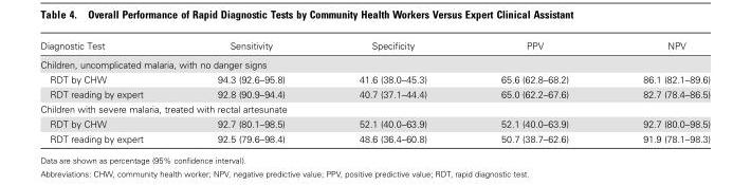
<table><thead><tr><td>Diagnostic Test</td><td>Sensitivity</td><td>Specificity</td><td>PPV</td><td>NPV</td></tr></thead><tbody><tr><td colspan="5">Children, uncomplicated malaria, with no danger signs</td></tr><tr><td>RDT by CHW</td><td>94.3 (92.6–95.8)</td><td>41.6 (38.0–45.3)</td><td>65.6 (62.8–68.2)</td><td>86.1 (82.1–89.6)</td></tr><tr><td>RDT reading by expert</td><td>92.8 (90.9–94.4)</td><td>40.7 (37.1–44.4)</td><td>65.0 (62.2–67.6)</td><td>82.7 (78.4–86.5)</td></tr><tr><td colspan="5">Children with severe malaria, treated with rectal artesunate</td></tr><tr><td>RDT by CHW</td><td>92.7 (80.1–98.5)</td><td>52.1 (40.0–63.9)</td><td>52.1 (40.0–63.9)</td><td>92.7 (80.0–98.5)</td></tr><tr><td>RDT reading by expert</td><td>92.5 (79.6–98.4)</td><td>48.6 (36.4–60.8)</td><td>50.7 (38.7–62.6)</td><td>91.9 (78.1–98.3)</td></tr></tbody></table>